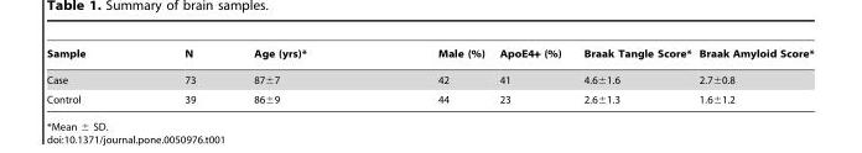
<table><thead><tr><td>Sample</td><td>N</td><td>Age (yrs)*</td><td>Male (%)</td><td>ApoE4+ (%)</td><td>Braak Tangle Score*</td><td>Braak Amyloid Score*</td></tr></thead><tbody><tr><td>Case</td><td>73</td><td>87±7</td><td>42</td><td>41</td><td>4.6±1.6</td><td>2.7±0.8</td></tr><tr><td>Control</td><td>39</td><td>86±9</td><td>44</td><td>23</td><td>2.6±1.3</td><td>1.6±1.2</td></tr></tbody></table>